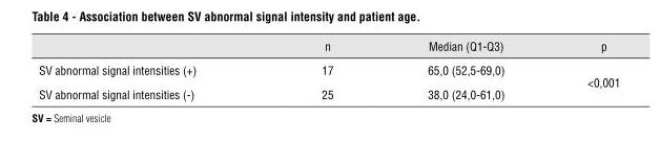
<table><thead><tr><td></td><td>n</td><td>Median (Q1-Q3)</td><td>p</td></tr></thead><tbody><tr><td>SV abnormal signal intensities (+)</td><td>17</td><td>65,0 (52,5-69,0)</td><td rowspan="2">&lt;0,001</td></tr><tr><td>SV abnormal signal intensities (-)</td><td>25</td><td>38,0 (24,0-61,0)</td></tr></tbody></table>